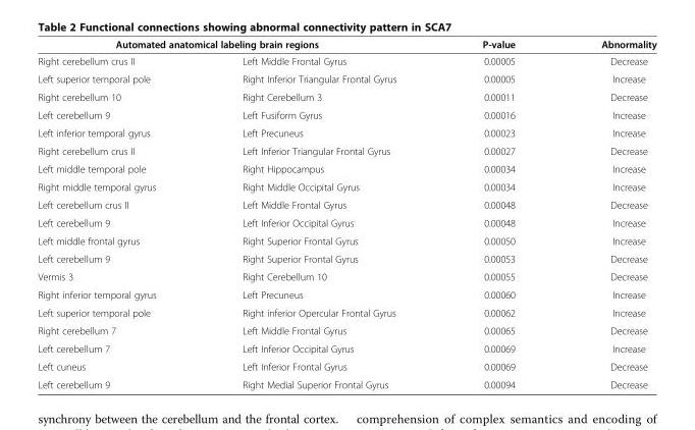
<table><thead><tr><td colspan="2">Automated anatomical labeling brain regions</td><td rowspan="2">P-value 0.00005</td><td rowspan="2">Abnormality Decrease</td></tr><tr><td>Right cerebellum crus II</td><td>Left Middle Frontal Gyrus</td></tr></thead><tbody><tr><td>Left superior temporal pole</td><td>Right Inferior Triangular Frontal Gyrus</td><td>0.00005</td><td>Increase</td></tr><tr><td>Right cerebellum 10</td><td>Right Cerebellum 3</td><td>0.00011</td><td>Decrease</td></tr><tr><td>Left cerebellum 9</td><td>Left Fusiform Gyrus</td><td>0.00016</td><td>Increase</td></tr><tr><td>Left inferior temporal gyrus</td><td>Left Precuneus</td><td>0.00023</td><td>Increase</td></tr><tr><td>Right cerebellum crus II</td><td>Left Inferior Triangular Frontal Gyrus</td><td>0.00027</td><td>Decrease</td></tr><tr><td>Left middle temporal pole</td><td>Right Hippocampus</td><td>0.00034</td><td>Increase</td></tr><tr><td>Right middle temporal gyrus</td><td>Right Middle Occipital Gyrus</td><td>0.00034</td><td>Increase</td></tr><tr><td>Left cerebellum crus II</td><td>Left Middle Frontal Gyrus</td><td>0.00048</td><td>Decrease</td></tr><tr><td>Left cerebellum 9</td><td>Left Inferior Occipital Gyrus</td><td>0.00048</td><td>Increase</td></tr><tr><td>Left middle frontal gyrus</td><td>Right Superior Frontal Gyrus</td><td>0.00050</td><td>Increase</td></tr><tr><td>Left cerebellum 9</td><td>Right Superior Frontal Gyrus</td><td>0.00053</td><td>Decrease</td></tr><tr><td>Vermis 3</td><td>Right Cerebellum 10</td><td>0.00055</td><td>Decrease</td></tr><tr><td>Right inferior temporal gyrus</td><td>Left Precuneus</td><td>0.00060</td><td>Increase</td></tr><tr><td>Left superior temporal pole</td><td>Right inferior Opercular Frontal Gyrus</td><td>0.00062</td><td>Increase</td></tr><tr><td>Right cerebellum 7</td><td>Left Middle Frontal Gyrus</td><td>0.00065</td><td>Decrease</td></tr><tr><td>Left cerebellum 7</td><td>Left Inferior Occipital Gyrus</td><td>0.00069</td><td>Increase</td></tr><tr><td>Left cuneus</td><td>Left Inferior Frontal Gyrus</td><td>0.00069</td><td>Decrease</td></tr><tr><td>Left cerebellum 9</td><td>Right Medial Superior Frontal Gyrus</td><td>0.00094</td><td>Decrease</td></tr></tbody></table>